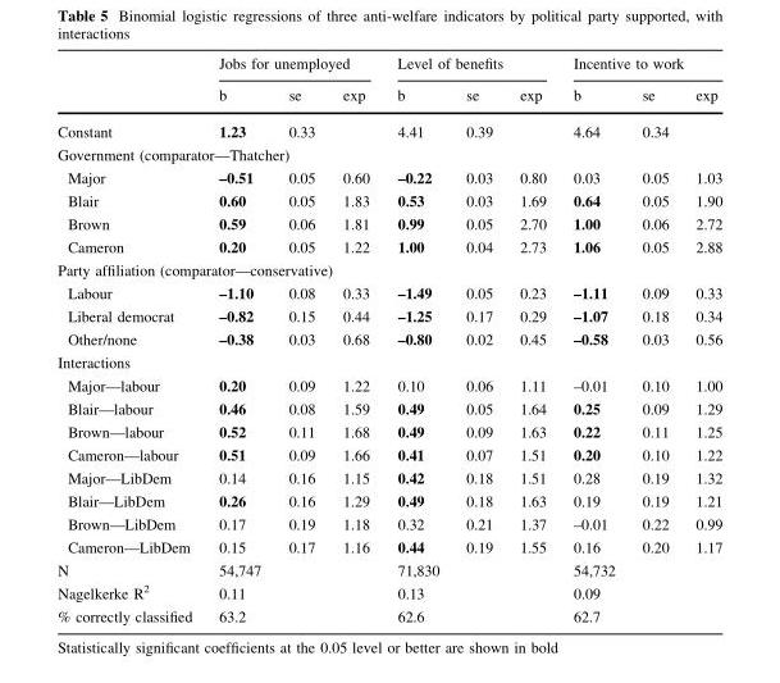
<table><thead><tr><td rowspan="2"></td><td colspan="3">Jobs for unemployed</td><td colspan="3">Level of benefits</td><td colspan="3">Incentive to work</td></tr><tr><td>b</td><td>se</td><td>exp</td><td>b</td><td>se</td><td>exp</td><td>b</td><td>se</td><td>exp</td></tr></thead><tbody><tr><td>Constant</td><td>1.23</td><td>0.33</td><td></td><td>4.41</td><td>0.39</td><td></td><td>4.64</td><td>0.34</td><td></td></tr><tr><td colspan="10">Government (comparator—Thatcher)</td></tr><tr><td>Major</td><td>–0.51</td><td>0.05</td><td>0.60</td><td>–0.22</td><td>0.03</td><td>0.80</td><td>0.03</td><td>0.05</td><td>1.03</td></tr><tr><td>Blair</td><td>0.60</td><td>0.05</td><td>1.83</td><td>0.53</td><td>0.03</td><td>1.69</td><td>0.64</td><td>0.05</td><td>1.90</td></tr><tr><td>Brown</td><td>0.59</td><td>0.06</td><td>1.81</td><td>0.99</td><td>0.05</td><td>2.70</td><td>1.00</td><td>0.06</td><td>2.72</td></tr><tr><td>Cameron</td><td>0.20</td><td>0.05</td><td>1.22</td><td>1.00</td><td>0.04</td><td>2.73</td><td>1.06</td><td>0.05</td><td>2.88</td></tr><tr><td colspan="10">Party affiliation (comparator—conservative)</td></tr><tr><td>Labour</td><td>–1.10</td><td>0.08</td><td>0.33</td><td>–1.49</td><td>0.05</td><td>0.23</td><td>–1.11</td><td>0.09</td><td>0.33</td></tr><tr><td>Liberal democrat</td><td>–0.82</td><td>0.15</td><td>0.44</td><td>–1.25</td><td>0.17</td><td>0.29</td><td>–1.07</td><td>0.18</td><td>0.34</td></tr><tr><td>Other/none</td><td>–0.38</td><td>0.03</td><td>0.68</td><td>–0.80</td><td>0.02</td><td>0.45</td><td>–0.58</td><td>0.03</td><td>0.56</td></tr><tr><td colspan="10">Interactions</td></tr><tr><td>Major—labour</td><td>0.20</td><td>0.09</td><td>1.22</td><td>0.10</td><td>0.06</td><td>1.11</td><td>–0.01</td><td>0.10</td><td>1.00</td></tr><tr><td>Blair—labour</td><td>0.46</td><td>0.08</td><td>1.59</td><td>0.49</td><td>0.05</td><td>1.64</td><td>0.25</td><td>0.09</td><td>1.29</td></tr><tr><td>Brown—labour</td><td>0.52</td><td>0.11</td><td>1.68</td><td>0.49</td><td>0.09</td><td>1.63</td><td>0.22</td><td>0.11</td><td>1.25</td></tr><tr><td>Cameron—labour</td><td>0.51</td><td>0.09</td><td>1.66</td><td>0.41</td><td>0.07</td><td>1.51</td><td>0.20</td><td>0.10</td><td>1.22</td></tr><tr><td>Major—LibDem</td><td>0.14</td><td>0.16</td><td>1.15</td><td>0.42</td><td>0.18</td><td>1.51</td><td>0.28</td><td>0.19</td><td>1.32</td></tr><tr><td>Blair—LibDem</td><td>0.26</td><td>0.16</td><td>1.29</td><td>0.49</td><td>0.18</td><td>1.63</td><td>0.19</td><td>0.19</td><td>1.21</td></tr><tr><td>Brown—LibDem</td><td>0.17</td><td>0.19</td><td>1.18</td><td>0.32</td><td>0.21</td><td>1.37</td><td>–0.01</td><td>0.22</td><td>0.99</td></tr><tr><td>Cameron—LibDem</td><td>0.15</td><td>0.17</td><td>1.16</td><td>0.44</td><td>0.19</td><td>1.55</td><td>0.16</td><td>0.20</td><td>1.17</td></tr><tr><td>N</td><td>54,747</td><td></td><td></td><td>71,830</td><td></td><td></td><td>54,732</td><td></td><td></td></tr><tr><td>Nagelkerke R<sup>2</sup></td><td>0.11</td><td></td><td></td><td>0.13</td><td></td><td></td><td>0.09</td><td></td><td></td></tr><tr><td>% correctly classified</td><td>63.2</td><td></td><td></td><td>62.6</td><td></td><td></td><td>62.7</td><td></td><td></td></tr></tbody></table>